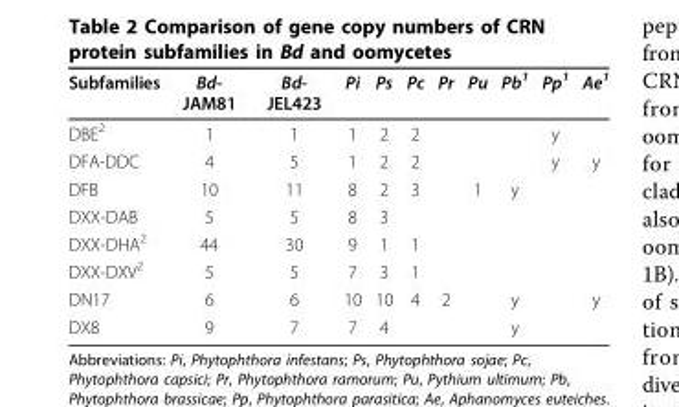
<table><thead><tr><td>Subfamilies</td><td>Bd- JAM81</td><td>Bd- JEL423</td><td>Pi</td><td>Ps</td><td>Pc</td><td>Pr</td><td>Pu</td><td>Pb<sup>1</sup></td><td>Pp<sup>1</sup></td><td>Ae<sup>1</sup></td></tr></thead><tbody><tr><td>DBE<sup>2</sup></td><td>1</td><td>1</td><td>1</td><td>2</td><td>2</td><td></td><td></td><td></td><td>y</td><td></td></tr><tr><td>DFA-DDC</td><td>4</td><td>5</td><td>1</td><td>2</td><td>2</td><td></td><td></td><td></td><td>y</td><td>y</td></tr><tr><td>DFB</td><td>10</td><td>11</td><td>8</td><td>2</td><td>3</td><td></td><td>1</td><td>y</td><td></td><td></td></tr><tr><td>DXX-DAB</td><td>5</td><td>5</td><td>8</td><td>3</td><td></td><td></td><td></td><td></td><td></td><td></td></tr><tr><td>DXX-DHA<sup>2</sup></td><td>44</td><td>30</td><td>9</td><td>1</td><td>1</td><td></td><td></td><td></td><td></td><td></td></tr><tr><td>DXX-DXV<sup>2</sup></td><td>5</td><td>5</td><td>7</td><td>3</td><td>1</td><td></td><td></td><td></td><td></td><td></td></tr><tr><td>DN17</td><td>6</td><td>6</td><td>10</td><td>10</td><td>4</td><td>2</td><td></td><td>y</td><td></td><td>y</td></tr><tr><td>DX8</td><td>9</td><td>7</td><td>7</td><td>4</td><td></td><td></td><td></td><td>y</td><td></td><td></td></tr></tbody></table>